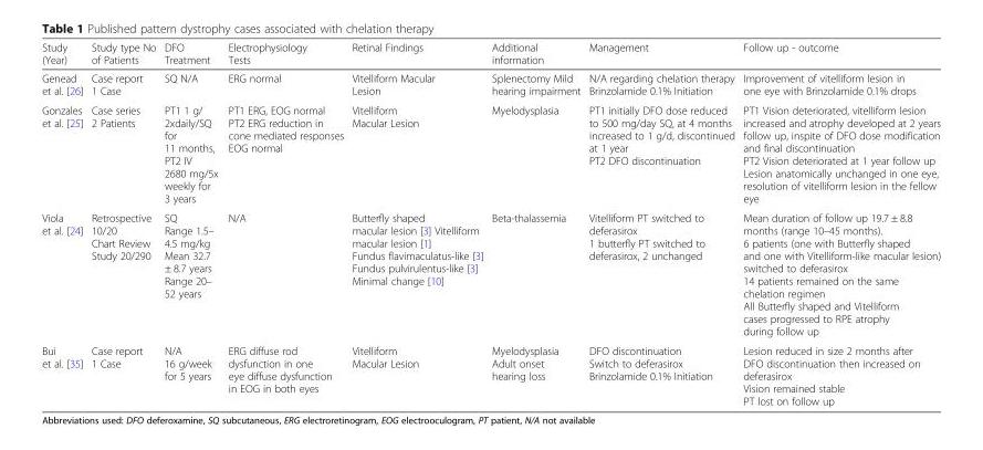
<table><thead><tr><td>Study (Year)</td><td>Study type No of Patients</td><td>DFO Treatment</td><td>Electrophysiology Tests</td><td>Retinal Findings</td><td>Additional information</td><td>Management</td><td>Follow up - outcome</td></tr></thead><tbody><tr><td>Genead et al. [26]</td><td>Case report 1 Case</td><td>SQ N/A</td><td>ERG normal</td><td>Vitelliform Macular Lesion</td><td>Splenectomy Mild hearing impairment</td><td>N/A regarding chelation therapy Brinzolamide 0.1% Initiation</td><td>Improvement of vitelliform lesion in one eye with Brinzolamide 0.1% drops</td></tr><tr><td>Gonzales et al. [25]</td><td>Case series 2 Patients</td><td>PT1 1 g/ 2xdaily/SQ for 11 months, PT2 IV 2680 mg/5x weekly for 3 years</td><td>PT1 ERG, EOG normal PT2 ERG reduction in cone mediated responses EOG normal</td><td>Vitelliform Macular Lesion</td><td>Myelodysplasia</td><td>PT1 initially DFO dose reduced to 500 mg/day SQ, at 4 months increased to 1 g/d, discontinued at 1 year PT2 DFO discontinuation</td><td>PT1 Vision deteriorated, vitelliform lesion increased and atrophy developed at 2 years follow up, inspite of DFO dose modification and final discontinuation PT2 Vision deteriorated at 1 year follow up Lesion anatomically unchanged in one eye, resolution of vitelliform lesion in the fellow eye</td></tr><tr><td>Viola et al. [24]</td><td>Retrospective 10/20 Chart Review Study 20/290</td><td>SQ Range 1.5– 4.5 mg/kg Mean 32.7 ± 8.7 years Range 20– 52 years</td><td>N/A</td><td>Butterfly shaped macular lesion [3] Vitelliform macular lesion [1] Fundus flavimaculatus-like [3] Fundus pulvirulentus-like [3] Minimal change [10]</td><td>Beta-thalassemia</td><td>Vitelliform PT switched to deferasirox 1 butterfly PT switched to deferasirox, 2 unchanged</td><td>Mean duration of follow up 19.7 ± 8.8 months (range 10–45 months). 6 patients (one with Butterfly shaped and one with Vitelliform-like macular lesion) switched to deferasirox 14 patients remained on the same chelation regimen All Butterfly shaped and Vitelliform cases progressed to RPE atrophy during follow up</td></tr><tr><td>Bui et al. [35]</td><td>Case report 1 Case</td><td>N/A 16 g/week for 5 years</td><td>ERG diffuse rod dysfunction in one eye diffuse dysfunction in EOG in both eyes</td><td>Vitelliform Macular Lesion</td><td>Myelodysplasia Adult onset hearing loss</td><td>DFO discontinuation Switch to deferasirox Brinzolamide 0.1% Initiation</td><td>Lesion reduced in size 2 months after DFO discontinuation then increased on deferasirox Vision remained stable PT lost on follow up</td></tr></tbody></table>